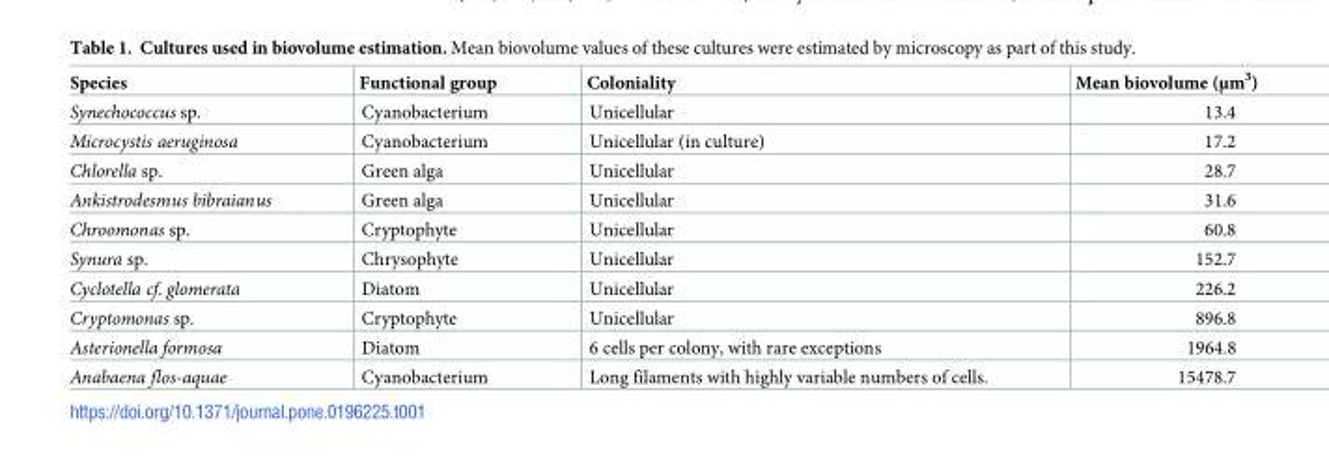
<table><thead><tr><td>Species</td><td>Functional group</td><td>Coloniality</td><td>Mean biovolume (μm<sup>3</sup>)</td></tr></thead><tbody><tr><td>Synechococcus sp.</td><td>Cyanobacterium</td><td>Unicellular</td><td>13.4</td></tr><tr><td>Microcystis aeruginosa</td><td>Cyanobacterium</td><td>Unicellular (in culture)</td><td>17.2</td></tr><tr><td>Chlorella sp.</td><td>Green alga</td><td>Unicellular</td><td>28.7</td></tr><tr><td>Ankistrodesmus bibraianus</td><td>Green alga</td><td>Unicellular</td><td>31.6</td></tr><tr><td>Chroomonas sp.</td><td>Cryptophyte</td><td>Unicellular</td><td>60.8</td></tr><tr><td>Synura sp.</td><td>Chrysophyte</td><td>Unicellular</td><td>152.7</td></tr><tr><td>Cyclotella cf. glomerata</td><td>Diatom</td><td>Unicellular</td><td>226.2</td></tr><tr><td>Cryptomonas sp.</td><td>Cryptophyte</td><td>Unicellular</td><td>896.8</td></tr><tr><td>Asterionella formosa</td><td>Diatom</td><td>6 cells per colony, with rare exceptions</td><td>1964.8</td></tr><tr><td>Anabaena flos-aquae</td><td>Cyanobacterium</td><td>Long filaments with highly variable numbers of cells.</td><td>15478.7</td></tr></tbody></table>